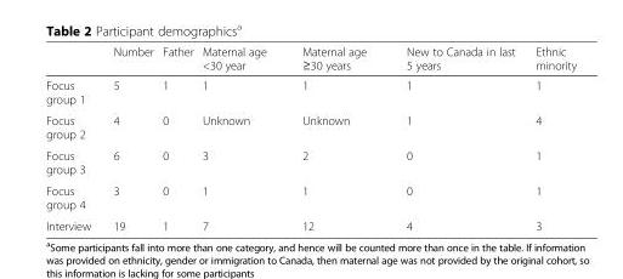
<table><thead><tr><td></td><td>Number</td><td>Father</td><td>Maternal age &lt;30 year</td><td>Maternal age ≥30 years</td><td>New to Canada in last 5 years</td><td>Ethnic minority</td></tr></thead><tbody><tr><td>Focus group 1</td><td>5</td><td>1</td><td>1</td><td>1</td><td>1</td><td>1</td></tr><tr><td>Focus group 2</td><td>4</td><td>0</td><td>Unknown</td><td>Unknown</td><td>1</td><td>4</td></tr><tr><td>Focus group 3</td><td>6</td><td>0</td><td>3</td><td>2</td><td>0</td><td>1</td></tr><tr><td>Focus group 4</td><td>3</td><td>0</td><td>1</td><td>1</td><td>0</td><td>1</td></tr><tr><td>Interview</td><td>19</td><td>1</td><td>7</td><td>12</td><td>4</td><td>3</td></tr></tbody></table>